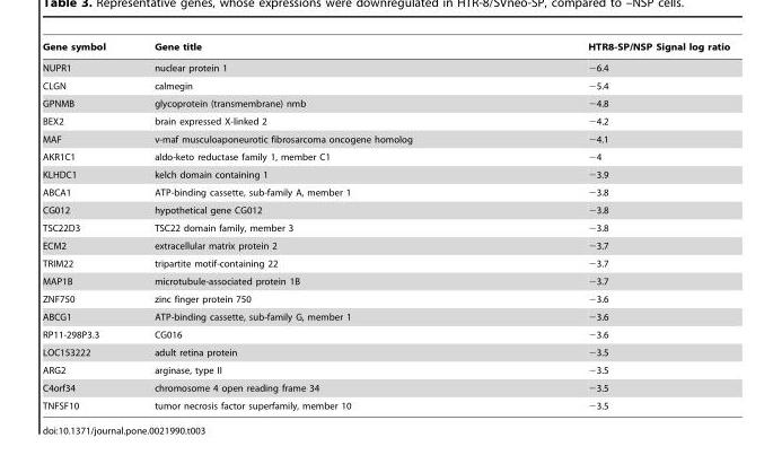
<table><thead><tr><td>Gene symbol</td><td>Gene title</td><td>HTR8-SP/NSP Signal log ratio</td></tr></thead><tbody><tr><td>NUPR1</td><td>nuclear protein 1</td><td>−6.4</td></tr><tr><td>CLGN</td><td>calmegin</td><td>−5.4</td></tr><tr><td>GPNMB</td><td>glycoprotein (transmembrane) nmb</td><td>−4.8</td></tr><tr><td>BEX2</td><td>brain expressed X-linked 2</td><td>−4.2</td></tr><tr><td>MAF</td><td>v-maf musculoaponeurotic fibrosarcoma oncogene homolog</td><td>−4.1</td></tr><tr><td>AKR1C1</td><td>aldo-keto reductase family 1, member C1</td><td>−4</td></tr><tr><td>KLHDC1</td><td>kelch domain containing 1</td><td>−3.9</td></tr><tr><td>ABCA1</td><td>ATP-binding cassette, sub-family A, member 1</td><td>−3.8</td></tr><tr><td>CG012</td><td>hypothetical gene CG012</td><td>−3.8</td></tr><tr><td>TSC22D3</td><td>TSC22 domain family, member 3</td><td>−3.8</td></tr><tr><td>ECM2</td><td>extracellular matrix protein 2</td><td>−3.7</td></tr><tr><td>TRIM22</td><td>tripartite motif-containing 22</td><td>−3.7</td></tr><tr><td>MAP1B</td><td>microtubule-associated protein 1B</td><td>−3.7</td></tr><tr><td>ZNF750</td><td>zinc finger protein 750</td><td>−3.6</td></tr><tr><td>ABCG1</td><td>ATP-binding cassette, sub-family G, member 1</td><td>−3.6</td></tr><tr><td>RP11-298P3.3</td><td>CG016</td><td>−3.6</td></tr><tr><td>LOC153222</td><td>adult retina protein</td><td>−3.5</td></tr><tr><td>ARG2</td><td>arginase, type II</td><td>−3.5</td></tr><tr><td>C4orf34</td><td>chromosome 4 open reading frame 34</td><td>−3.5</td></tr><tr><td>TNFSF10</td><td>tumor necrosis factor superfamily, member 10</td><td>−3.5</td></tr></tbody></table>